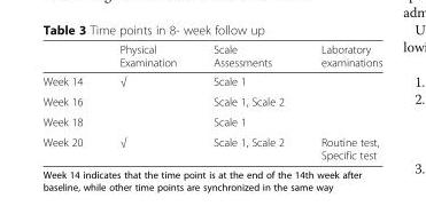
<table><thead><tr><td></td><td>Physical Examination</td><td>Scale Assessments</td><td>Laboratory examinations</td></tr></thead><tbody><tr><td>Week 14</td><td>√</td><td>Scale 1</td><td></td></tr><tr><td>Week 16</td><td></td><td>Scale 1, Scale 2</td><td></td></tr><tr><td>Week 18</td><td></td><td>Scale 1</td><td></td></tr><tr><td>Week 20</td><td>√</td><td>Scale 1, Scale 2</td><td>Routine test, Specific test</td></tr></tbody></table>